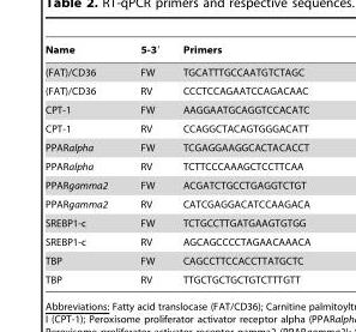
<table><thead><tr><td>Name</td><td>5-3′</td><td>Primers</td></tr></thead><tbody><tr><td>(FAT)/CD36</td><td>FW</td><td>TGCATTTGCCAATGTCTAGC</td></tr><tr><td>(FAT)/CD36</td><td>RV</td><td>CCCTCCAGAATCCAGACAAC</td></tr><tr><td>CPT-1</td><td>FW</td><td>AAGGAATGCAGGTCCACATC</td></tr><tr><td>CPT-1</td><td>RV</td><td>CCAGGCTACAGTGGGACATT</td></tr><tr><td>PPARalpha</td><td>FW</td><td>TCGAGGAAGGCACTACACCT</td></tr><tr><td>PPARalpha</td><td>RV</td><td>TCTTCCCAAAGCTCCTTCAA</td></tr><tr><td>PPARgamma2</td><td>FW</td><td>ACGATCTGCCTGAGGTCTGT</td></tr><tr><td>PPARgamma2</td><td>RV</td><td>CATCGAGGACATCCAAGACA</td></tr><tr><td>SREBP1-c</td><td>FW</td><td>TCTGCCTTGATGAAGTGTGG</td></tr><tr><td>SREBP1-c</td><td>RV</td><td>AGCAGCCCCTAGAACAAACA</td></tr><tr><td>TBP</td><td>FW</td><td>CAGCCTTCCACCTTATGCTC</td></tr><tr><td>TBP</td><td>RV</td><td>TTGCTGCTGCTGTCTTTGTT</td></tr></tbody></table>